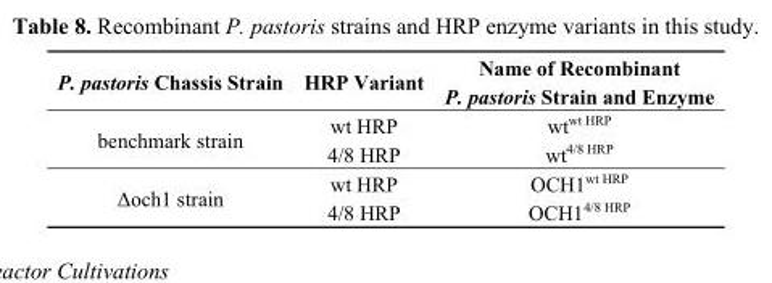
<table><thead><tr><td>P. pastoris Chassis Strain</td><td>HRP Variant</td><td>Name of Recombinant P. pastoris Strain and Enzyme</td></tr></thead><tbody><tr><td rowspan="2">benchmark strain</td><td>wt HRP</td><td>wt<sup>wt HRP</sup></td></tr><tr><td>4/8 HRP</td><td>wt<sup>4/8 HRP</sup></td></tr><tr><td rowspan="2">Δoch1 strain</td><td>wt HRP</td><td>OCH1<sup>wt HRP</sup></td></tr><tr><td>4/8 HRP</td><td>OCH1<sup>4/8 HRP</sup></td></tr></tbody></table>